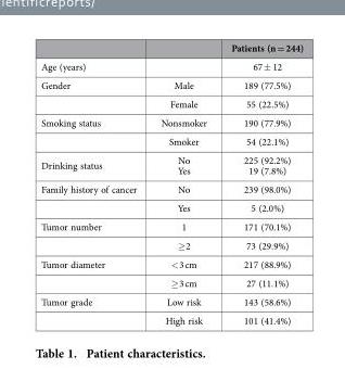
<table><thead><tr><td></td><td></td><td>Patients (n = 244)</td></tr></thead><tbody><tr><td>Age (years)</td><td></td><td>67 ± 12</td></tr><tr><td rowspan="2">Gender</td><td>Male</td><td>189 (77.5%)</td></tr><tr><td>Female</td><td>55 (22.5%)</td></tr><tr><td rowspan="2">Smoking status</td><td>Nonsmoker</td><td>190 (77.9%)</td></tr><tr><td>Smoker</td><td>54 (22.1%)</td></tr><tr><td>Drinking status</td><td>No Yes</td><td>225 (92.2%) 19 (7.8%)</td></tr><tr><td rowspan="2">Family history of cancer</td><td>No</td><td>239 (98.0%)</td></tr><tr><td>Yes</td><td>5 (2.0%)</td></tr><tr><td rowspan="2">Tumor number</td><td>1</td><td>171 (70.1%)</td></tr><tr><td>≥ 2</td><td>73 (29.9%)</td></tr><tr><td rowspan="2">Tumor diameter</td><td>&lt; 3 cm</td><td>217 (88.9%)</td></tr><tr><td>≥ 3 cm</td><td>27 (11.1%)</td></tr><tr><td rowspan="2">Tumor grade</td><td>Low risk</td><td>143 (58.6%)</td></tr><tr><td>High risk</td><td>101 (41.4%)</td></tr></tbody></table>